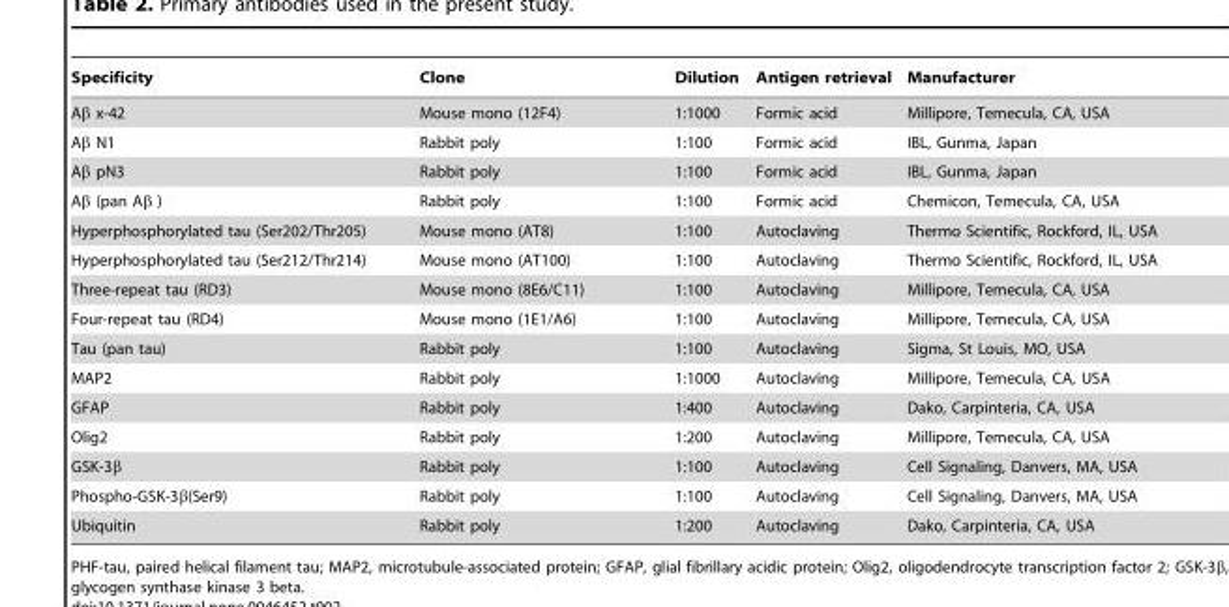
<table><thead><tr><td>Specificity</td><td>Clone</td><td>Dilution</td><td>Antigen retrieval</td><td>Manufacturer</td></tr></thead><tbody><tr><td>Aβ x-42</td><td>Mouse mono (12F4)</td><td>1:1000</td><td>Formic acid</td><td>Millipore, Temecula, CA, USA</td></tr><tr><td>Aβ N1</td><td>Rabbit poly</td><td>1:100</td><td>Formic acid</td><td>IBL, Gunma, Japan</td></tr><tr><td>Aβ pN3</td><td>Rabbit poly</td><td>1:100</td><td>Formic acid</td><td>IBL, Gunma, Japan</td></tr><tr><td>Aβ (pan Aβ )</td><td>Rabbit poly</td><td>1:100</td><td>Formic acid</td><td>Chemicon, Temecula, CA, USA</td></tr><tr><td>Hyperphosphorylated tau (Ser202/Thr205)</td><td>Mouse mono (AT8)</td><td>1:100</td><td>Autoclaving</td><td>Thermo Scientific, Rockford, IL, USA</td></tr><tr><td>Hyperphosphorylated tau (Ser212/Thr214)</td><td>Mouse mono (AT100)</td><td>1:100</td><td>Autoclaving</td><td>Thermo Scientific, Rockford, IL, USA</td></tr><tr><td>Three-repeat tau (RD3)</td><td>Mouse mono (8E6/C11)</td><td>1:100</td><td>Autoclaving</td><td>Millipore, Temecula, CA, USA</td></tr><tr><td>Four-repeat tau (RD4)</td><td>Mouse mono (1E1/A6)</td><td>1:100</td><td>Autoclaving</td><td>Millipore, Temecula, CA, USA</td></tr><tr><td>Tau (pan tau)</td><td>Rabbit poly</td><td>1:100</td><td>Autoclaving</td><td>Sigma, St Louis, MO, USA</td></tr><tr><td>MAP2</td><td>Rabbit poly</td><td>1:1000</td><td>Autoclaving</td><td>Millipore, Temecula, CA, USA</td></tr><tr><td>GFAP</td><td>Rabbit poly</td><td>1:400</td><td>Autoclaving</td><td>Dako, Carpinteria, CA, USA</td></tr><tr><td>Olig2</td><td>Rabbit poly</td><td>1:200</td><td>Autoclaving</td><td>Millipore, Temecula, CA, USA</td></tr><tr><td>GSK-3β</td><td>Rabbit poly</td><td>1:100</td><td>Autoclaving</td><td>Cell Signaling, Danvers, MA, USA</td></tr><tr><td>Phospho-GSK-3β(Ser9)</td><td>Rabbit poly</td><td>1:100</td><td>Autoclaving</td><td>Cell Signaling, Danvers, MA, USA</td></tr><tr><td>Ubiquitin</td><td>Rabbit poly</td><td>1:200</td><td>Autoclaving</td><td>Dako, Carpinteria, CA, USA</td></tr></tbody></table>